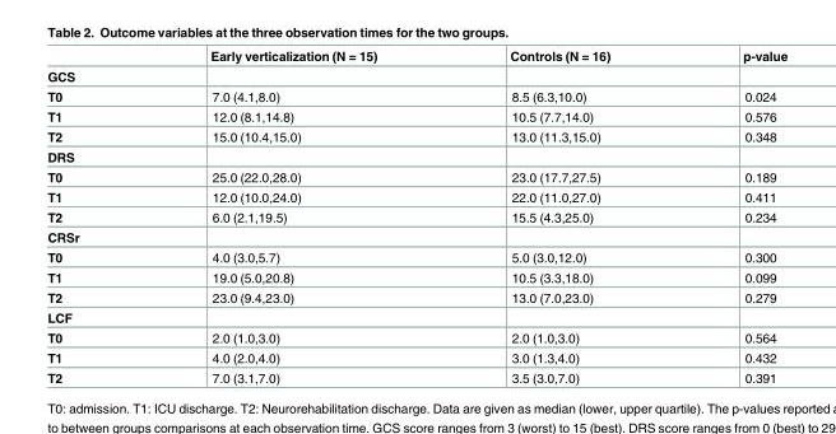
<table><thead><tr><td></td><td>Early verticalization (N = 15)</td><td>Controls (N = 16)</td><td>p-value</td></tr></thead><tbody><tr><td colspan="4">GCS</td></tr><tr><td>T0</td><td>7.0 (4.1,8.0)</td><td>8.5 (6.3,10.0)</td><td>0.024</td></tr><tr><td>T1</td><td>12.0 (8.1,14.8)</td><td>10.5 (7.7,14.0)</td><td>0.576</td></tr><tr><td>T2</td><td>15.0 (10.4,15.0)</td><td>13.0 (11.3,15.0)</td><td>0.348</td></tr><tr><td colspan="4">DRS</td></tr><tr><td>T0</td><td>25.0 (22.0,28.0)</td><td>23.0 (17.7,27.5)</td><td>0.189</td></tr><tr><td>T1</td><td>12.0 (10.0,24.0)</td><td>22.0 (11.0,27.0)</td><td>0.411</td></tr><tr><td>T2</td><td>6.0 (2.1,19.5)</td><td>15.5 (4.3,25.0)</td><td>0.234</td></tr><tr><td colspan="4">CRSr</td></tr><tr><td>T0</td><td>4.0 (3.0,5.7)</td><td>5.0 (3.0,12.0)</td><td>0.300</td></tr><tr><td>T1</td><td>19.0 (5.0,20.8)</td><td>10.5 (3.3,18.0)</td><td>0.099</td></tr><tr><td>T2</td><td>23.0 (9.4,23.0)</td><td>13.0 (7.0,23.0)</td><td>0.279</td></tr><tr><td colspan="4">LCF</td></tr><tr><td>T0</td><td>2.0 (1.0,3.0)</td><td>2.0 (1.0,3.0)</td><td>0.564</td></tr><tr><td>T1</td><td>4.0 (2.0,4.0)</td><td>3.0 (1.3,4.0)</td><td>0.432</td></tr><tr><td>T2</td><td>7.0 (3.1,7.0)</td><td>3.5 (3.0,7.0)</td><td>0.391</td></tr></tbody></table>